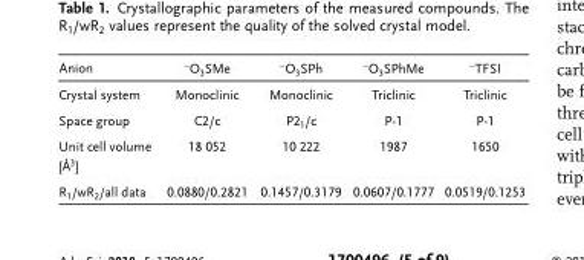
<table><thead><tr><td>Anion</td><td><sup>−</sup>O<sub>3</sub>SMe</td><td><sup>−</sup>O<sub>3</sub>SPh</td><td><sup>−</sup>O<sub>3</sub>SPhMe</td><td><sup>−</sup>TFSI</td></tr></thead><tbody><tr><td>Crystal system</td><td>Monoclinic</td><td>Monoclinic</td><td>Triclinic</td><td>Triclinic</td></tr><tr><td>Space group</td><td>C2/c</td><td>P2<sub>1</sub>/c</td><td>P-1</td><td>P-1</td></tr><tr><td>Unit cell volume [Å<sup>3</sup>]</td><td>18 052</td><td>10 222</td><td>1987</td><td>1650</td></tr><tr><td>R<sub>1</sub>/wR<sub>2</sub>/all data</td><td>0.0880/0.2821</td><td>0.1457/0.3179</td><td>0.0607/0.1777</td><td>0.0519/0.1253</td></tr></tbody></table>